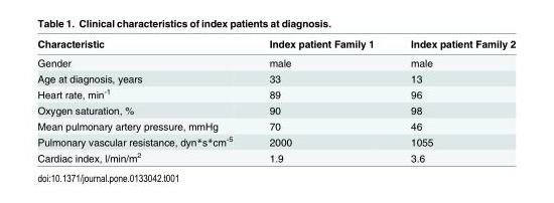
<table><thead><tr><td>Characteristic</td><td>Index patient Family 1</td><td>Index patient Family 2</td></tr></thead><tbody><tr><td>Gender</td><td>male</td><td>male</td></tr><tr><td>Age at diagnosis, years</td><td>33</td><td>13</td></tr><tr><td>Heart rate, min<sup>-1</sup></td><td>89</td><td>96</td></tr><tr><td>Oxygen saturation, %</td><td>90</td><td>98</td></tr><tr><td>Mean pulmonary artery pressure, mmHg</td><td>70</td><td>46</td></tr><tr><td>Pulmonary vascular resistance, dyn*s*cm<sup>-5</sup></td><td>2000</td><td>1055</td></tr><tr><td>Cardiac index, l/min/m<sup>2</sup></td><td>1.9</td><td>3.6</td></tr></tbody></table>